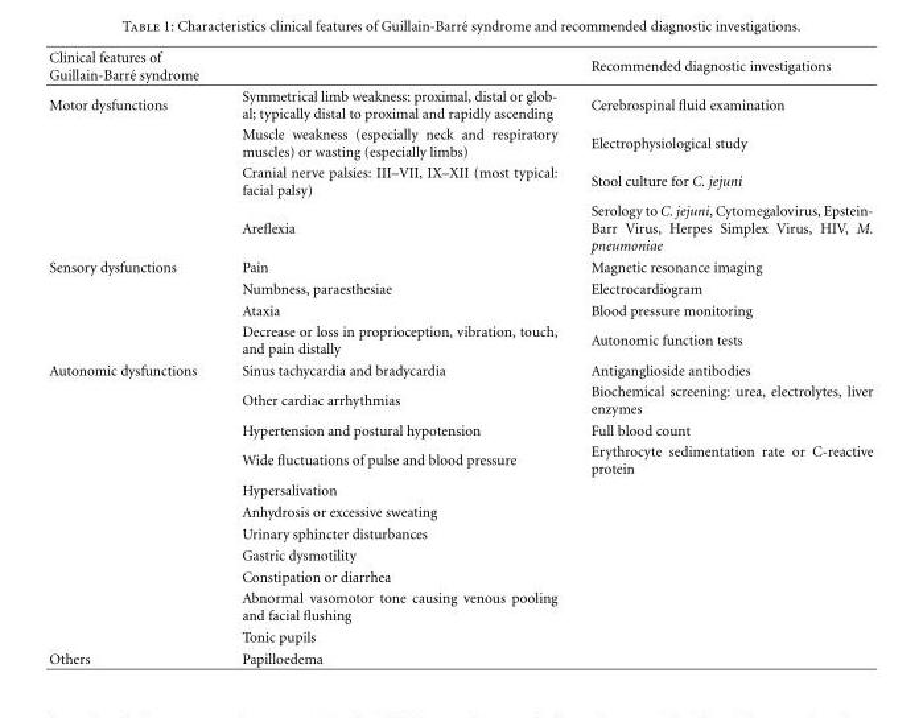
<table><thead><tr><td>Clinical features of Guillain-Barr´e syndrome</td><td></td><td>Recommended diagnostic investigations</td></tr></thead><tbody><tr><td rowspan="4">Motor dysfunctions</td><td>Symmetrical limb weakness: proximal, distal or glob- al; typically distal to proximal and rapidly ascending</td><td>Cerebrospinal fluid examination</td></tr><tr><td>Muscle weakness (especially neck and respiratory muscles) or wasting (especially limbs)</td><td>Electrophysiological study</td></tr><tr><td>Cranial nerve palsies: III–VII, IX–XII (most typical: facial palsy)</td><td>Stool culture for C. jejuni</td></tr><tr><td>Areflexia</td><td>Serology to C. jejuni, Cytomegalovirus, Epstein- Barr Virus, Herpes Simplex Virus, HIV, M. pneumoniae</td></tr><tr><td rowspan="4">Sensory dysfunctions</td><td>Pain</td><td>Magnetic resonance imaging</td></tr><tr><td>Numbness, paraesthesiae</td><td>Electrocardiogram</td></tr><tr><td>Ataxia</td><td>Blood pressure monitoring</td></tr><tr><td>Decrease or loss in proprioception, vibration, touch, and pain distally</td><td>Autonomic function tests</td></tr><tr><td rowspan="11">Autonomic dysfunctions</td><td>Sinus tachycardia and bradycardia</td><td>Antiganglioside antibodies</td></tr><tr><td>Other cardiac arrhythmias</td><td>Biochemical screening: urea, electrolytes, liver enzymes</td></tr><tr><td>Hypertension and postural hypotension</td><td>Full blood count</td></tr><tr><td>Wide fluctuations of pulse and blood pressure</td><td>Erythrocyte sedimentation rate or C-reactive protein</td></tr><tr><td>Hypersalivation</td><td></td></tr><tr><td>Anhydrosis or excessive sweating</td><td></td></tr><tr><td>Urinary sphincter disturbances</td><td></td></tr><tr><td>Gastric dysmotility</td><td></td></tr><tr><td>Constipation or diarrhea</td><td></td></tr><tr><td>Abnormal vasomotor tone causing venous pooling and facial flushing</td><td></td></tr><tr><td>Tonic pupils</td><td></td></tr><tr><td>Others</td><td>Papilloedema</td><td></td></tr></tbody></table>